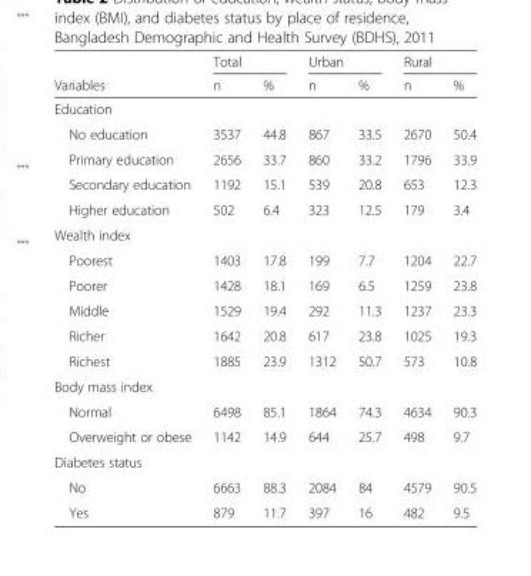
<table><thead><tr><td rowspan="2">Variables</td><td colspan="2">Total</td><td colspan="2">Urban</td><td colspan="2">Rural</td></tr><tr><td>n</td><td>%</td><td>n</td><td>%</td><td>n</td><td>%</td></tr></thead><tbody><tr><td colspan="7">Education</td></tr><tr><td>No education</td><td>3537</td><td>44.8</td><td>867</td><td>33.5</td><td>2670</td><td>50.4</td></tr><tr><td>Primary education</td><td>2656</td><td>33.7</td><td>860</td><td>33.2</td><td>1796</td><td>33.9</td></tr><tr><td>Secondary education</td><td>1192</td><td>15.1</td><td>539</td><td>20.8</td><td>653</td><td>12.3</td></tr><tr><td>Higher education</td><td>502</td><td>6.4</td><td>323</td><td>12.5</td><td>179</td><td>3.4</td></tr><tr><td colspan="7">Wealth index</td></tr><tr><td>Poorest</td><td>1403</td><td>17.8</td><td>199</td><td>7.7</td><td>1204</td><td>22.7</td></tr><tr><td>Poorer</td><td>1428</td><td>18.1</td><td>169</td><td>6.5</td><td>1259</td><td>23.8</td></tr><tr><td>Middle</td><td>1529</td><td>19.4</td><td>292</td><td>11.3</td><td>1237</td><td>23.3</td></tr><tr><td>Richer</td><td>1642</td><td>20.8</td><td>617</td><td>23.8</td><td>1025</td><td>19.3</td></tr><tr><td>Richest</td><td>1885</td><td>23.9</td><td>1312</td><td>50.7</td><td>573</td><td>10.8</td></tr><tr><td colspan="7">Body mass index</td></tr><tr><td>Normal</td><td>6498</td><td>85.1</td><td>1864</td><td>74.3</td><td>4634</td><td>90.3</td></tr><tr><td>Overweight or obese</td><td>1142</td><td>14.9</td><td>644</td><td>25.7</td><td>498</td><td>9.7</td></tr><tr><td colspan="7">Diabetes status</td></tr><tr><td>No</td><td>6663</td><td>88.3</td><td>2084</td><td>84</td><td>4579</td><td>90.5</td></tr><tr><td>Yes</td><td>879</td><td>11.7</td><td>397</td><td>16</td><td>482</td><td>9.5</td></tr></tbody></table>